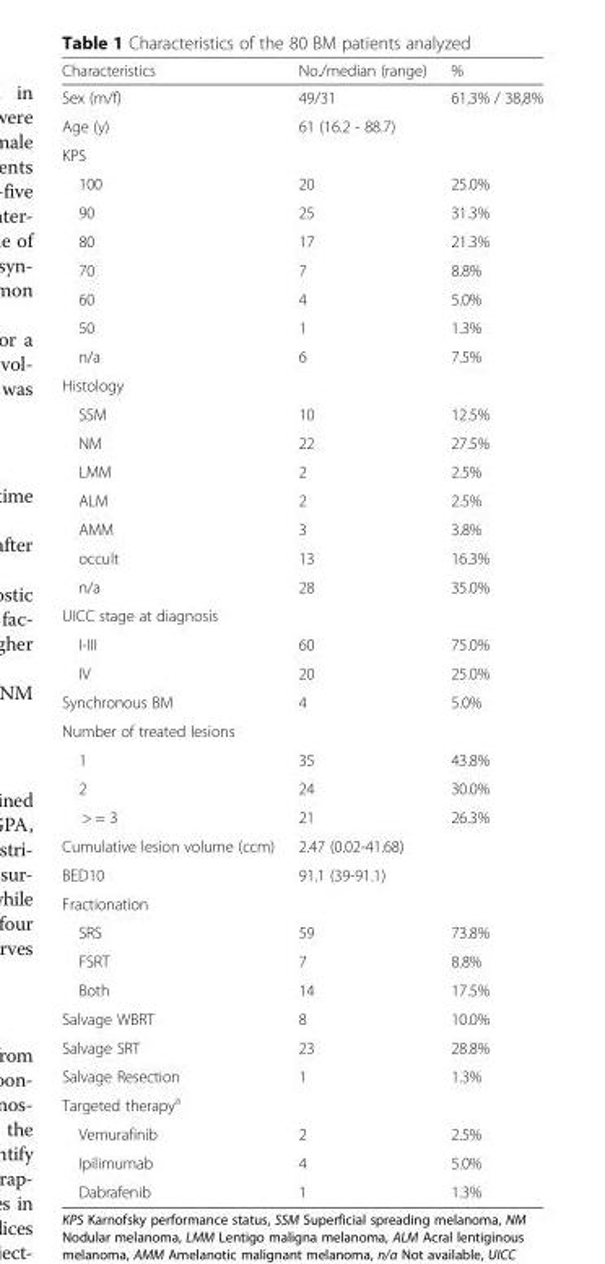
<table><thead><tr><td>Characteristics</td><td>No./median (range)</td><td>%</td></tr></thead><tbody><tr><td>Sex (m/f)</td><td>49/31</td><td>61,3% / 38,8%</td></tr><tr><td>Age (y)</td><td>61 (16.2 - 88.7)</td><td></td></tr><tr><td colspan="3">KPS</td></tr><tr><td>100</td><td>20</td><td>25.0%</td></tr><tr><td>90</td><td>25</td><td>31.3%</td></tr><tr><td>80</td><td>17</td><td>21.3%</td></tr><tr><td>70</td><td>7</td><td>8.8%</td></tr><tr><td>60</td><td>4</td><td>5.0%</td></tr><tr><td>50</td><td>1</td><td>1.3%</td></tr><tr><td>n/a</td><td>6</td><td>7.5%</td></tr><tr><td colspan="3">Histology</td></tr><tr><td>SSM</td><td>10</td><td>12.5%</td></tr><tr><td>NM</td><td>22</td><td>27.5%</td></tr><tr><td>LMM</td><td>2</td><td>2.5%</td></tr><tr><td>ALM</td><td>2</td><td>2.5%</td></tr><tr><td>AMM</td><td>3</td><td>3.8%</td></tr><tr><td>occult</td><td>13</td><td>16.3%</td></tr><tr><td>n/a</td><td>28</td><td>35.0%</td></tr><tr><td colspan="3">UICC stage at diagnosis</td></tr><tr><td>I-III</td><td>60</td><td>75.0%</td></tr><tr><td>IV</td><td>20</td><td>25.0%</td></tr><tr><td>Synchronous BM</td><td>4</td><td>5.0%</td></tr><tr><td colspan="3">Number of treated lesions</td></tr><tr><td>1</td><td>35</td><td>43.8%</td></tr><tr><td>2</td><td>24</td><td>30.0%</td></tr><tr><td>&gt; = 3</td><td>21</td><td>26.3%</td></tr><tr><td>Cumulative lesion volume (ccm)</td><td>2.47 (0.02-41.68)</td><td></td></tr><tr><td>BED10</td><td>91.1 (39-91.1)</td><td></td></tr><tr><td colspan="3">Fractionation</td></tr><tr><td>SRS</td><td>59</td><td>73.8%</td></tr><tr><td>FSRT</td><td>7</td><td>8.8%</td></tr><tr><td>Both</td><td>14</td><td>17.5%</td></tr><tr><td>Salvage WBRT</td><td>8</td><td>10.0%</td></tr><tr><td>Salvage SRT</td><td>23</td><td>28.8%</td></tr><tr><td>Salvage Resection</td><td>1</td><td>1.3%</td></tr><tr><td colspan="3">Targeted therapy<sup>a</sup></td></tr><tr><td>Vemurafinib</td><td>2</td><td>2.5%</td></tr><tr><td>Ipilimumab</td><td>4</td><td>5.0%</td></tr><tr><td>Dabrafenib</td><td>1</td><td>1.3%</td></tr></tbody></table>